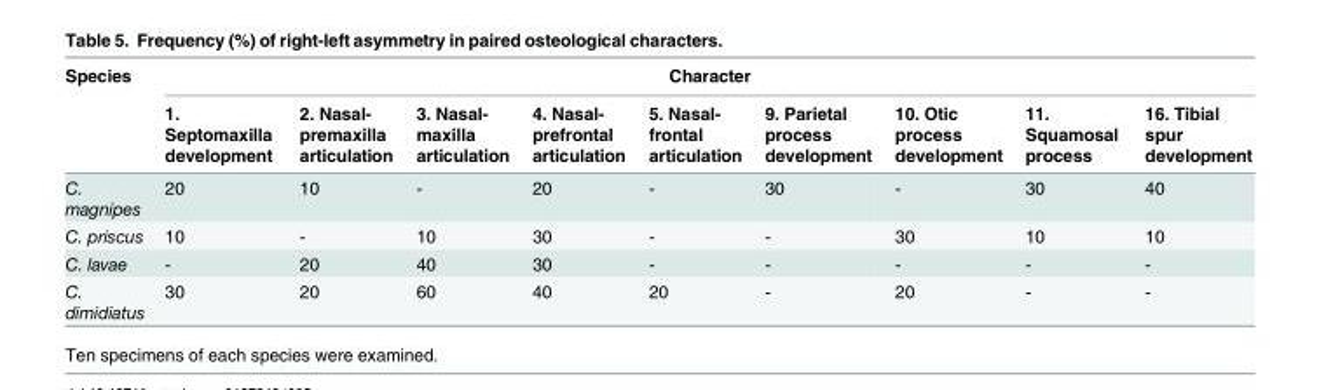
<table><thead><tr><td rowspan="2">Species</td><td colspan="9">Character</td></tr><tr><td>1. Septomaxilla development</td><td>2. Nasal- premaxilla articulation</td><td>3. Nasal- maxilla articulation</td><td>4. Nasal- prefrontal articulation</td><td>5. Nasal- frontal articulation</td><td>9. Parietal process development</td><td>10. Otic process development</td><td>11. Squamosal process</td><td>16. Tibial spur development</td></tr></thead><tbody><tr><td>C. magnipes</td><td>20</td><td>10</td><td>-</td><td>20</td><td>-</td><td>30</td><td>-</td><td>30</td><td>40</td></tr><tr><td>C. priscus</td><td>10</td><td>-</td><td>10</td><td>30</td><td>-</td><td>-</td><td>30</td><td>10</td><td>10</td></tr><tr><td>C. lavae</td><td>-</td><td>20</td><td>40</td><td>30</td><td>-</td><td>-</td><td>-</td><td>-</td><td>-</td></tr><tr><td>C. dimidiatus</td><td>30</td><td>20</td><td>60</td><td>40</td><td>20</td><td>-</td><td>20</td><td>-</td><td>-</td></tr></tbody></table>